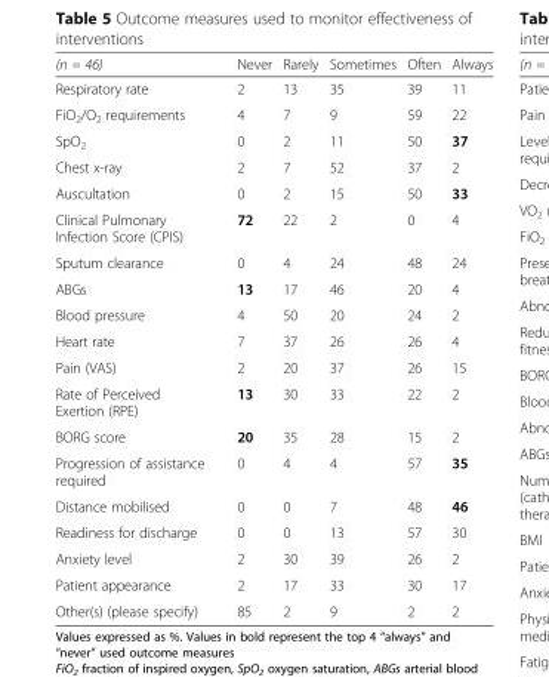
<table><thead><tr><td>(n = 46)</td><td>Never</td><td>Rarely</td><td>Sometimes</td><td>Often</td><td>Always</td></tr></thead><tbody><tr><td>Respiratory rate</td><td>2</td><td>13</td><td>35</td><td>39</td><td>11</td></tr><tr><td>FiO<sub>2</sub>/O<sub>2</sub> requirements</td><td>4</td><td>7</td><td>9</td><td>59</td><td>22</td></tr><tr><td>SpO<sub>2</sub></td><td>0</td><td>2</td><td>11</td><td>50</td><td>37</td></tr><tr><td>Chest x-ray</td><td>2</td><td>7</td><td>52</td><td>37</td><td>2</td></tr><tr><td>Auscultation</td><td>0</td><td>2</td><td>15</td><td>50</td><td>33</td></tr><tr><td>Clinical Pulmonary Infection Score (CPIS)</td><td>72</td><td>22</td><td>2</td><td>0</td><td>4</td></tr><tr><td>Sputum clearance</td><td>0</td><td>4</td><td>24</td><td>48</td><td>24</td></tr><tr><td>ABGs</td><td>13</td><td>17</td><td>46</td><td>20</td><td>4</td></tr><tr><td>Blood pressure</td><td>4</td><td>50</td><td>20</td><td>24</td><td>2</td></tr><tr><td>Heart rate</td><td>7</td><td>37</td><td>26</td><td>26</td><td>4</td></tr><tr><td>Pain (VAS)</td><td>2</td><td>20</td><td>37</td><td>26</td><td>15</td></tr><tr><td>Rate of Perceived Exertion (RPE)</td><td>13</td><td>30</td><td>33</td><td>22</td><td>2</td></tr><tr><td>BORG score</td><td>20</td><td>35</td><td>28</td><td>15</td><td>2</td></tr><tr><td>Progression of assistance required</td><td>0</td><td>4</td><td>4</td><td>57</td><td>35</td></tr><tr><td>Distance mobilised</td><td>0</td><td>0</td><td>7</td><td>48</td><td>46</td></tr><tr><td>Readiness for discharge</td><td>0</td><td>0</td><td>13</td><td>57</td><td>30</td></tr><tr><td>Anxiety level</td><td>2</td><td>30</td><td>39</td><td>26</td><td>2</td></tr><tr><td>Patient appearance</td><td>2</td><td>17</td><td>33</td><td>30</td><td>17</td></tr><tr><td>Other(s) (please specify)</td><td>85</td><td>2</td><td>9</td><td>2</td><td>2</td></tr></tbody></table>